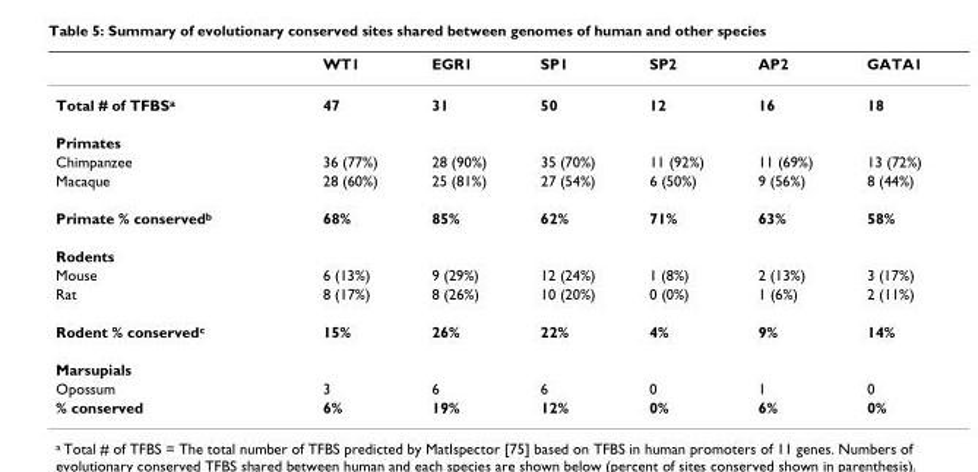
<table><thead><tr><td></td><td>WT1</td><td>EGR1</td><td>SP1</td><td>SP2</td><td>AP2</td><td>GATA1</td></tr></thead><tbody><tr><td>Total # of TFBS<sup>a</sup></td><td>47</td><td>31</td><td>50</td><td>12</td><td>16</td><td>18</td></tr><tr><td colspan="7">Primates</td></tr><tr><td>Chimpanzee</td><td>36 (77%)</td><td>28 (90%)</td><td>35 (70%)</td><td>11 (92%)</td><td>11 (69%)</td><td>13 (72%)</td></tr><tr><td>Macaque</td><td>28 (60%)</td><td>25 (81%)</td><td>27 (54%)</td><td>6 (50%)</td><td>9 (56%)</td><td>8 (44%)</td></tr><tr><td>Primate % conserved<sup>b</sup></td><td>68%</td><td>85%</td><td>62%</td><td>71%</td><td>63%</td><td>58%</td></tr><tr><td colspan="7">Rodents</td></tr><tr><td>Mouse</td><td>6 (13%)</td><td>9 (29%)</td><td>12 (24%)</td><td>1 (8%)</td><td>2 (13%)</td><td>3 (17%)</td></tr><tr><td>Rat</td><td>8 (17%)</td><td>8 (26%)</td><td>10 (20%)</td><td>0 (0%)</td><td>1 (6%)</td><td>2 (11%)</td></tr><tr><td>Rodent % conserved<sup>c</sup></td><td>15%</td><td>26%</td><td>22%</td><td>4%</td><td>9%</td><td>14%</td></tr><tr><td colspan="7">Marsupials</td></tr><tr><td>Opossum</td><td>3</td><td>6</td><td>6</td><td>0</td><td>1</td><td>0</td></tr><tr><td>% conserved</td><td>6%</td><td>19%</td><td>12%</td><td>0%</td><td>6%</td><td>0%</td></tr></tbody></table>